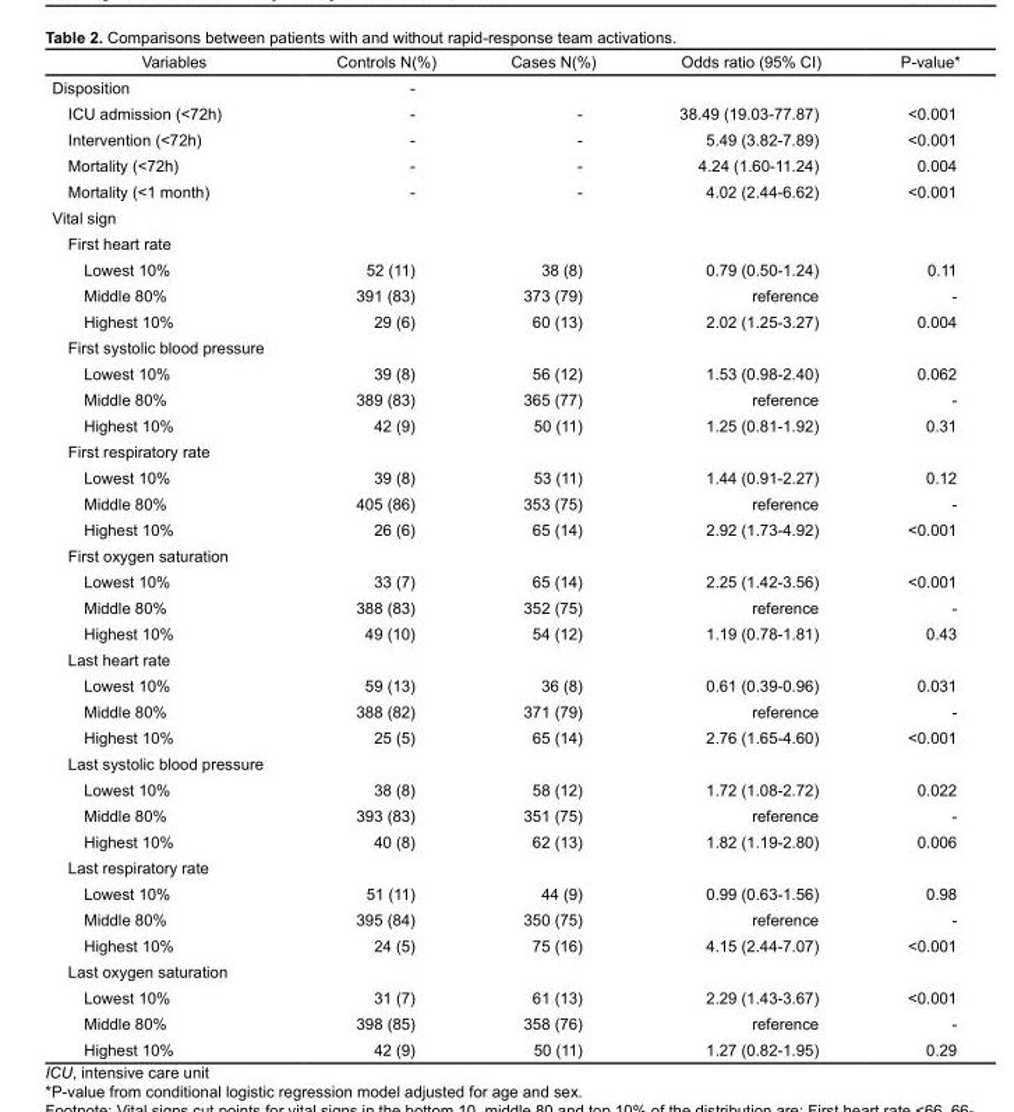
<table><thead><tr><td>Variables</td><td>Controls N(%)</td><td>Cases N(%)</td><td>Odds ratio (95% CI)</td><td>P-value*</td></tr></thead><tbody><tr><td>Disposition</td><td>-</td><td></td><td></td><td></td></tr><tr><td>ICU admission (&lt;72h)</td><td>-</td><td>-</td><td>38.49 (19.03-77.87)</td><td>&lt;0.001</td></tr><tr><td>Intervention (&lt;72h)</td><td>-</td><td>-</td><td>5.49 (3.82-7.89)</td><td>&lt;0.001</td></tr><tr><td>Mortality (&lt;72h)</td><td>-</td><td>-</td><td>4.24 (1.60-11.24)</td><td>0.004</td></tr><tr><td>Mortality (&lt;1 month)</td><td>-</td><td>-</td><td>4.02 (2.44-6.62)</td><td>&lt;0.001</td></tr><tr><td colspan="5">Vital sign</td></tr><tr><td colspan="5">First heart rate</td></tr><tr><td>Lowest 10%</td><td>52 (11)</td><td>38 (8)</td><td>0.79 (0.50-1.24)</td><td>0.11</td></tr><tr><td>Middle 80%</td><td>391 (83)</td><td>373 (79)</td><td>reference</td><td>-</td></tr><tr><td>Highest 10%</td><td>29 (6)</td><td>60 (13)</td><td>2.02 (1.25-3.27)</td><td>0.004</td></tr><tr><td colspan="5">First systolic blood pressure</td></tr><tr><td>Lowest 10%</td><td>39 (8)</td><td>56 (12)</td><td>1.53 (0.98-2.40)</td><td>0.062</td></tr><tr><td>Middle 80%</td><td>389 (83)</td><td>365 (77)</td><td>reference</td><td>-</td></tr><tr><td>Highest 10%</td><td>42 (9)</td><td>50 (11)</td><td>1.25 (0.81-1.92)</td><td>0.31</td></tr><tr><td colspan="5">First respiratory rate</td></tr><tr><td>Lowest 10%</td><td>39 (8)</td><td>53 (11)</td><td>1.44 (0.91-2.27)</td><td>0.12</td></tr><tr><td>Middle 80%</td><td>405 (86)</td><td>353 (75)</td><td>reference</td><td>-</td></tr><tr><td>Highest 10%</td><td>26 (6)</td><td>65 (14)</td><td>2.92 (1.73-4.92)</td><td>&lt;0.001</td></tr><tr><td colspan="5">First oxygen saturation</td></tr><tr><td>Lowest 10%</td><td>33 (7)</td><td>65 (14)</td><td>2.25 (1.42-3.56)</td><td>&lt;0.001</td></tr><tr><td>Middle 80%</td><td>388 (83)</td><td>352 (75)</td><td>reference</td><td>-</td></tr><tr><td>Highest 10%</td><td>49 (10)</td><td>54 (12)</td><td>1.19 (0.78-1.81)</td><td>0.43</td></tr><tr><td colspan="5">Last heart rate</td></tr><tr><td>Lowest 10%</td><td>59 (13)</td><td>36 (8)</td><td>0.61 (0.39-0.96)</td><td>0.031</td></tr><tr><td>Middle 80%</td><td>388 (82)</td><td>371 (79)</td><td>reference</td><td>-</td></tr><tr><td>Highest 10%</td><td>25 (5)</td><td>65 (14)</td><td>2.76 (1.65-4.60)</td><td>&lt;0.001</td></tr><tr><td colspan="5">Last systolic blood pressure</td></tr><tr><td>Lowest 10%</td><td>38 (8)</td><td>58 (12)</td><td>1.72 (1.08-2.72)</td><td>0.022</td></tr><tr><td>Middle 80%</td><td>393 (83)</td><td>351 (75)</td><td>reference</td><td>-</td></tr><tr><td>Highest 10%</td><td>40 (8)</td><td>62 (13)</td><td>1.82 (1.19-2.80)</td><td>0.006</td></tr><tr><td colspan="5">Last respiratory rate</td></tr><tr><td>Lowest 10%</td><td>51 (11)</td><td>44 (9)</td><td>0.99 (0.63-1.56)</td><td>0.98</td></tr><tr><td>Middle 80%</td><td>395 (84)</td><td>350 (75)</td><td>reference</td><td>-</td></tr><tr><td>Highest 10%</td><td>24 (5)</td><td>75 (16)</td><td>4.15 (2.44-7.07)</td><td>&lt;0.001</td></tr><tr><td colspan="5">Last oxygen saturation</td></tr><tr><td>Lowest 10%</td><td>31 (7)</td><td>61 (13)</td><td>2.29 (1.43-3.67)</td><td>&lt;0.001</td></tr><tr><td>Middle 80%</td><td>398 (85)</td><td>358 (76)</td><td>reference</td><td>-</td></tr><tr><td>Highest 10%</td><td>42 (9)</td><td>50 (11)</td><td>1.27 (0.82-1.95)</td><td>0.29</td></tr></tbody></table>